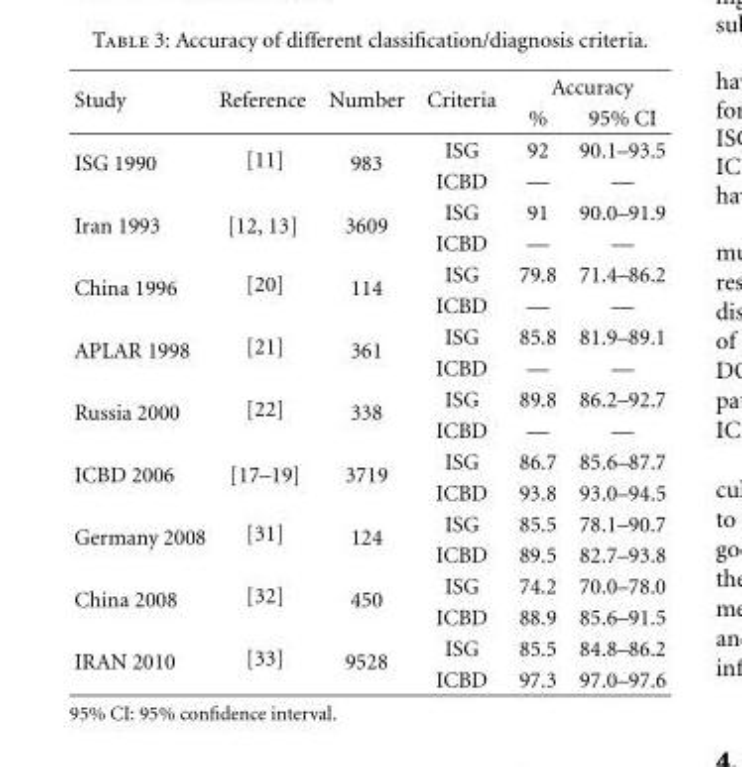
<table><thead><tr><td rowspan="2">Study</td><td rowspan="2">Reference</td><td rowspan="2">Number</td><td rowspan="2">Criteria</td><td colspan="2">Accuracy</td></tr><tr><td>%</td><td>95% CI</td></tr></thead><tbody><tr><td rowspan="2">ISG 1990</td><td rowspan="2">[11]</td><td rowspan="2">983</td><td>ISG</td><td>92</td><td>90.1–93.5</td></tr><tr><td>ICBD</td><td>—</td><td>—</td></tr><tr><td rowspan="2">Iran 1993</td><td rowspan="2">[12, 13]</td><td rowspan="2">3609</td><td>ISG</td><td>91</td><td>90.0–91.9</td></tr><tr><td>ICBD</td><td>—</td><td>—</td></tr><tr><td rowspan="2">China 1996</td><td rowspan="2">[20]</td><td rowspan="2">114</td><td>ISG</td><td>79.8</td><td>71.4–86.2</td></tr><tr><td>ICBD</td><td>—</td><td>—</td></tr><tr><td rowspan="2">APLAR 1998</td><td rowspan="2">[21]</td><td rowspan="2">361</td><td>ISG</td><td>85.8</td><td>81.9–89.1</td></tr><tr><td>ICBD</td><td>—</td><td>—</td></tr><tr><td rowspan="2">Russia 2000</td><td rowspan="2">[22]</td><td rowspan="2">338</td><td>ISG</td><td>89.8</td><td>86.2–92.7</td></tr><tr><td>ICBD</td><td>—</td><td>—</td></tr><tr><td rowspan="2">ICBD 2006</td><td rowspan="2">[17–19]</td><td rowspan="2">3719</td><td>ISG</td><td>86.7</td><td>85.6–87.7</td></tr><tr><td>ICBD</td><td>93.8</td><td>93.0–94.5</td></tr><tr><td rowspan="2">Germany 2008</td><td rowspan="2">[31]</td><td rowspan="2">124</td><td>ISG</td><td>85.5</td><td>78.1–90.7</td></tr><tr><td>ICBD</td><td>89.5</td><td>82.7–93.8</td></tr><tr><td rowspan="2">China 2008</td><td rowspan="2">[32]</td><td rowspan="2">450</td><td>ISG</td><td>74.2</td><td>70.0–78.0</td></tr><tr><td>ICBD</td><td>88.9</td><td>85.6–91.5</td></tr><tr><td rowspan="2">IRAN 2010</td><td rowspan="2">[33]</td><td rowspan="2">9528</td><td>ISG</td><td>85.5</td><td>84.8–86.2</td></tr><tr><td>ICBD</td><td>97.3</td><td>97.0–97.6</td></tr></tbody></table>